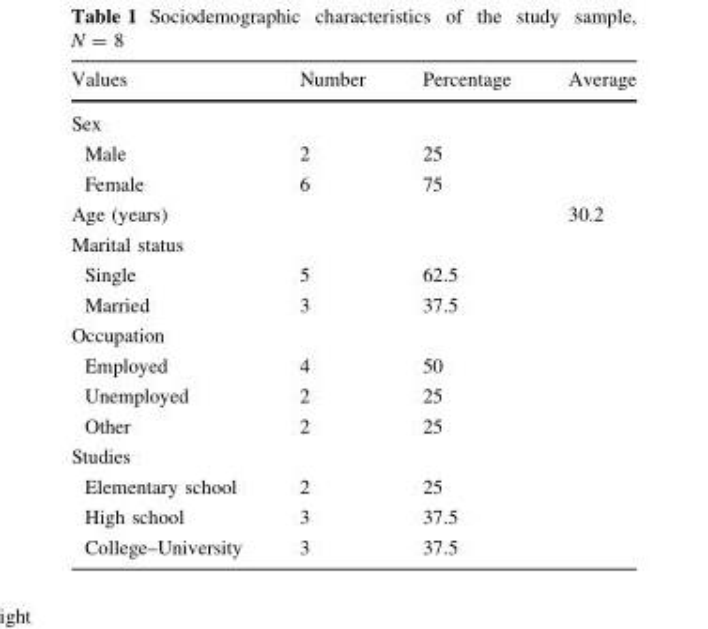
<table><thead><tr><td>Values</td><td>Number</td><td>Percentage</td><td>Average</td></tr></thead><tbody><tr><td colspan="4">Sex</td></tr><tr><td>Male</td><td>2</td><td>25</td><td></td></tr><tr><td>Female</td><td>6</td><td>75</td><td></td></tr><tr><td>Age (years)</td><td></td><td></td><td>30.2</td></tr><tr><td colspan="4">Marital status</td></tr><tr><td>Single</td><td>5</td><td>62.5</td><td></td></tr><tr><td>Married</td><td>3</td><td>37.5</td><td></td></tr><tr><td colspan="4">Occupation</td></tr><tr><td>Employed</td><td>4</td><td>50</td><td></td></tr><tr><td>Unemployed</td><td>2</td><td>25</td><td></td></tr><tr><td>Other</td><td>2</td><td>25</td><td></td></tr><tr><td colspan="4">Studies</td></tr><tr><td>Elementary school</td><td>2</td><td>25</td><td></td></tr><tr><td>High school</td><td>3</td><td>37.5</td><td></td></tr><tr><td>College–University</td><td>3</td><td>37.5</td><td></td></tr></tbody></table>